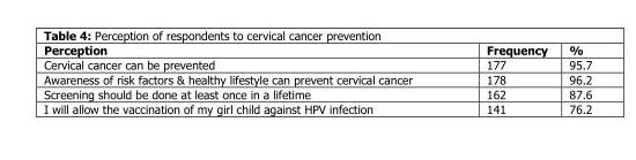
<table><thead><tr><td>Perception</td><td>Frequency</td><td>%</td></tr></thead><tbody><tr><td>Cervical cancer can be prevented</td><td>177</td><td>95.7</td></tr><tr><td>Awareness of risk factors &amp; healthy lifestyle can prevent cervical cancer</td><td>178</td><td>96.2</td></tr><tr><td>Screening should be done at least once in a lifetime</td><td>162</td><td>87.6</td></tr><tr><td>I will allow the vaccination of my girl child against HPV infection</td><td>141</td><td>76.2</td></tr></tbody></table>